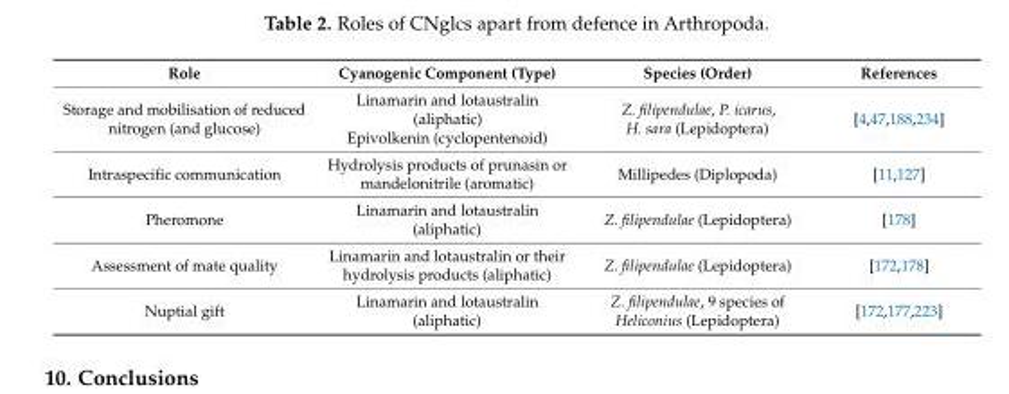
<table><thead><tr><td>Role</td><td>Cyanogenic Component (Type)</td><td>Species (Order)</td><td>References</td></tr></thead><tbody><tr><td>Storage and mobilisation of reduced nitrogen (and glucose)</td><td>Linamarin and lotaustralin (aliphatic) Epivolkenin (cyclopentenoid)</td><td>Z. filipendulae, P. icarus, H. sara (Lepidoptera)</td><td>[4,47,188,234]</td></tr><tr><td>Intraspecific communication</td><td>Hydrolysis products of prunasin or mandelonitrile (aromatic)</td><td>Millipedes (Diplopoda)</td><td>[11,127]</td></tr><tr><td>Pheromone</td><td>Linamarin and lotaustralin (aliphatic)</td><td>Z. filipendulae (Lepidoptera)</td><td>[178]</td></tr><tr><td>Assessment of mate quality</td><td>Linamarin and lotaustralin or their hydrolysis products (aliphatic)</td><td>Z. filipendulae (Lepidoptera)</td><td>[172,178]</td></tr><tr><td>Nuptial gift</td><td>Linamarin and lotaustralin (aliphatic)</td><td>Z. filipendulae, 9 species of Heliconius (Lepidoptera)</td><td>[172,177,223]</td></tr></tbody></table>